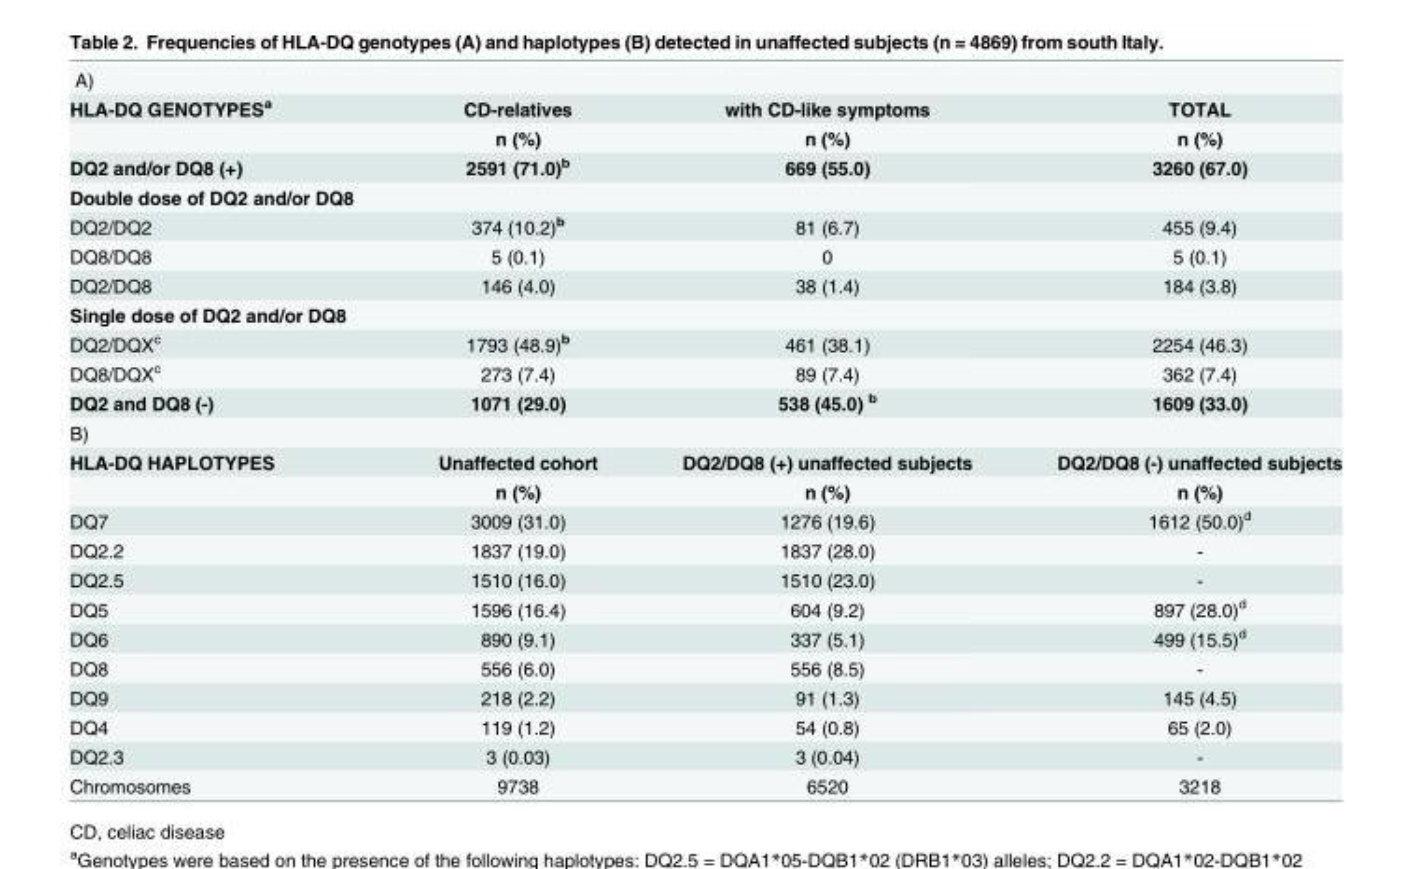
<table><tbody><tr><td colspan="4">A)</td></tr><tr><td rowspan="2">HLA-DQ GENOTYPES<sup>a</sup></td><td>CD-relatives</td><td>with CD-like symptoms</td><td>TOTAL</td></tr><tr><td>n (%)</td><td>n (%)</td><td>n (%)</td></tr><tr><td>DQ2 and/or DQ8 (+)</td><td>2591 (71.0)<sup>b</sup></td><td>669 (55.0)</td><td>3260 (67.0)</td></tr><tr><td colspan="4">Double dose of DQ2 and/or DQ8</td></tr><tr><td>DQ2/DQ2</td><td>374 (10.2)<sup>b</sup></td><td>81 (6.7)</td><td>455 (9.4)</td></tr><tr><td>DQ8/DQ8</td><td>5 (0.1)</td><td>0</td><td>5 (0.1)</td></tr><tr><td>DQ2/DQ8</td><td>146 (4.0)</td><td>38 (1.4)</td><td>184 (3.8)</td></tr><tr><td colspan="4">Single dose of DQ2 and/or DQ8</td></tr><tr><td>DQ2/DQX<sup>c</sup></td><td>1793 (48.9)<sup>b</sup></td><td>461 (38.1)</td><td>2254 (46.3)</td></tr><tr><td>DQ8/DQX<sup>c</sup></td><td>273 (7.4)</td><td>89 (7.4)</td><td>362 (7.4)</td></tr><tr><td>DQ2 and DQ8 (-)</td><td>1071 (29.0)</td><td>538 (45.0) <sup>b</sup></td><td>1609 (33.0)</td></tr><tr><td colspan="4">B)</td></tr><tr><td rowspan="2">HLA-DQ HAPLOTYPES</td><td>Unaffected cohort</td><td>DQ2/DQ8 (+) unaffected subjects</td><td>DQ2/DQ8 (-) unaffected subjects</td></tr><tr><td>n (%)</td><td>n (%)</td><td>n (%)</td></tr><tr><td>DQ7</td><td>3009 (31.0)</td><td>1276 (19.6)</td><td>1612 (50.0)<sup>d</sup></td></tr><tr><td>DQ2.2</td><td>1837 (19.0)</td><td>1837 (28.0)</td><td>-</td></tr><tr><td>DQ2.5</td><td>1510 (16.0)</td><td>1510 (23.0)</td><td>-</td></tr><tr><td>DQ5</td><td>1596 (16.4)</td><td>604 (9.2)</td><td>897 (28.0)<sup>d</sup></td></tr><tr><td>DQ6</td><td>890 (9.1)</td><td>337 (5.1)</td><td>499 (15.5)<sup>d</sup></td></tr><tr><td>DQ8</td><td>556 (6.0)</td><td>556 (8.5)</td><td>-</td></tr><tr><td>DQ9</td><td>218 (2.2)</td><td>91 (1.3)</td><td>145 (4.5)</td></tr><tr><td>DQ4</td><td>119 (1.2)</td><td>54 (0.8)</td><td>65 (2.0)</td></tr><tr><td>DQ2.3</td><td>3 (0.03)</td><td>3 (0.04)</td><td>-</td></tr><tr><td>Chromosomes</td><td>9738</td><td>6520</td><td>3218</td></tr></tbody></table>